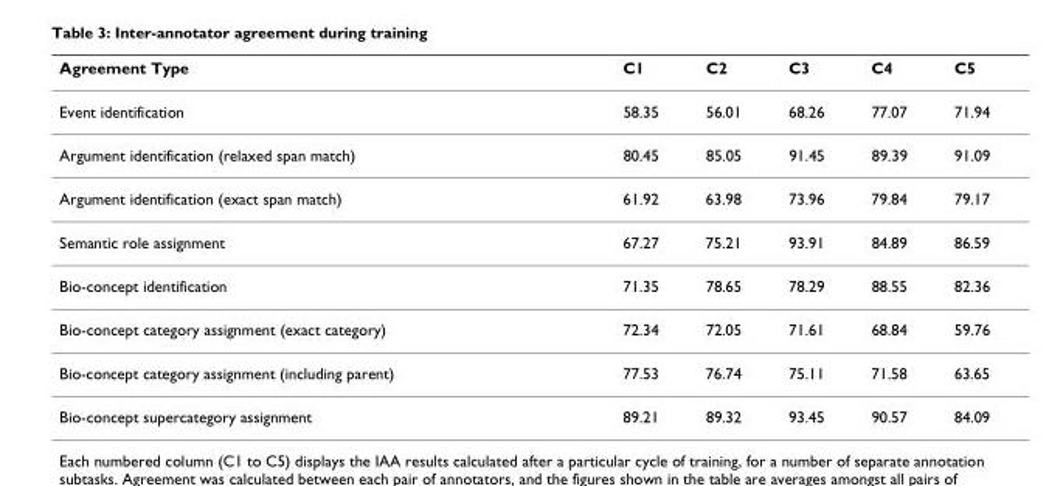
<table><thead><tr><td>Agreement Type</td><td>C1</td><td>C2</td><td>C3</td><td>C4</td><td>C5</td></tr></thead><tbody><tr><td>Event identification</td><td>58.35</td><td>56.01</td><td>68.26</td><td>77.07</td><td>71.94</td></tr><tr><td>Argument identification (relaxed span match)</td><td>80.45</td><td>85.05</td><td>91.45</td><td>89.39</td><td>91.09</td></tr><tr><td>Argument identification (exact span match)</td><td>61.92</td><td>63.98</td><td>73.96</td><td>79.84</td><td>79.17</td></tr><tr><td>Semantic role assignment</td><td>67.27</td><td>75.21</td><td>93.91</td><td>84.89</td><td>86.59</td></tr><tr><td>Bio-concept identification</td><td>71.35</td><td>78.65</td><td>78.29</td><td>88.55</td><td>82.36</td></tr><tr><td>Bio-concept category assignment (exact category)</td><td>72.34</td><td>72.05</td><td>71.61</td><td>68.84</td><td>59.76</td></tr><tr><td>Bio-concept category assignment (including parent)</td><td>77.53</td><td>76.74</td><td>75.11</td><td>71.58</td><td>63.65</td></tr><tr><td>Bio-concept supercategory assignment</td><td>89.21</td><td>89.32</td><td>93.45</td><td>90.57</td><td>84.09</td></tr></tbody></table>